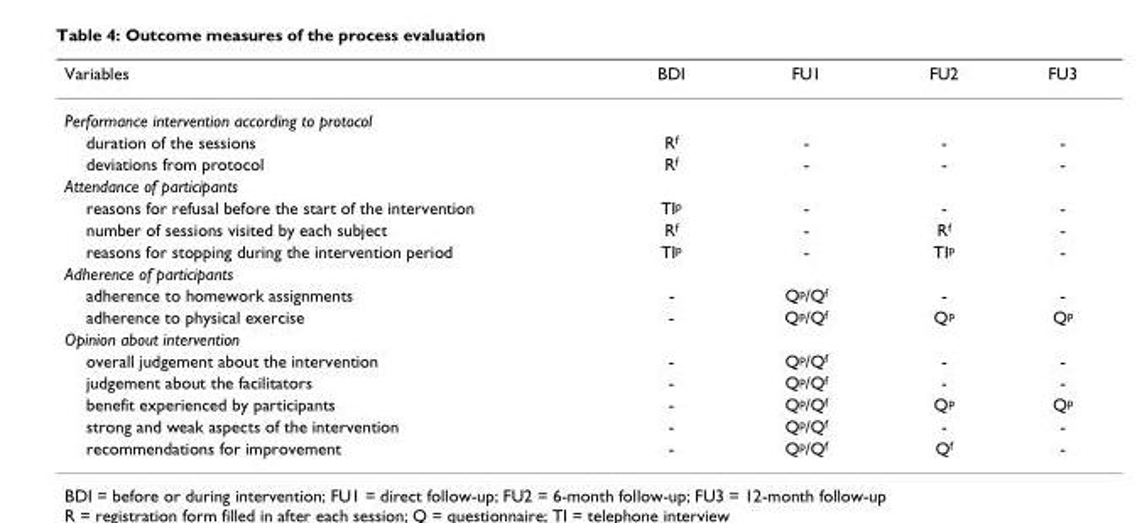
<table><thead><tr><td>Variables</td><td>BDI</td><td>FU1</td><td>FU2</td><td>FU3</td></tr></thead><tbody><tr><td colspan="5">Performance intervention according to protocol</td></tr><tr><td>duration of the sessions</td><td>R<sup>f</sup></td><td>-</td><td>-</td><td>-</td></tr><tr><td>deviations from protocol</td><td>R<sup>f</sup></td><td>-</td><td>-</td><td>-</td></tr><tr><td colspan="5">Attendance of participants</td></tr><tr><td>reasons for refusal before the start of the intervention</td><td>TI<sup>p</sup></td><td>-</td><td>-</td><td>-</td></tr><tr><td>number of sessions visited by each subject</td><td>R<sup>f</sup></td><td>-</td><td>R<sup>f</sup></td><td>-</td></tr><tr><td>reasons for stopping during the intervention period</td><td>TI<sup>p</sup></td><td>-</td><td>TI<sup>p</sup></td><td>-</td></tr><tr><td colspan="5">Adherence of participants</td></tr><tr><td>adherence to homework assignments</td><td>-</td><td>Q<sup>p</sup>/Q<sup>f</sup></td><td>-</td><td>-</td></tr><tr><td>adherence to physical exercise</td><td>-</td><td>Q<sup>p</sup>/Q<sup>f</sup></td><td>Q<sup>p</sup></td><td>Q<sup>p</sup></td></tr><tr><td colspan="5">Opinion about intervention</td></tr><tr><td>overall judgement about the intervention</td><td>-</td><td>Q<sup>p</sup>/Q<sup>f</sup></td><td>-</td><td>-</td></tr><tr><td>judgement about the facilitators</td><td>-</td><td>Q<sup>p</sup>/Q<sup>f</sup></td><td>-</td><td>-</td></tr><tr><td>benefit experienced by participants</td><td>-</td><td>Q<sup>p</sup>/Q<sup>f</sup></td><td>Q<sup>p</sup></td><td>Q<sup>p</sup></td></tr><tr><td>strong and weak aspects of the intervention</td><td>-</td><td>Q<sup>p</sup>/Q<sup>f</sup></td><td>-</td><td>-</td></tr><tr><td>recommendations for improvement</td><td>-</td><td>Q<sup>p</sup>/Q<sup>f</sup></td><td>Q<sup>f</sup></td><td>-</td></tr></tbody></table>